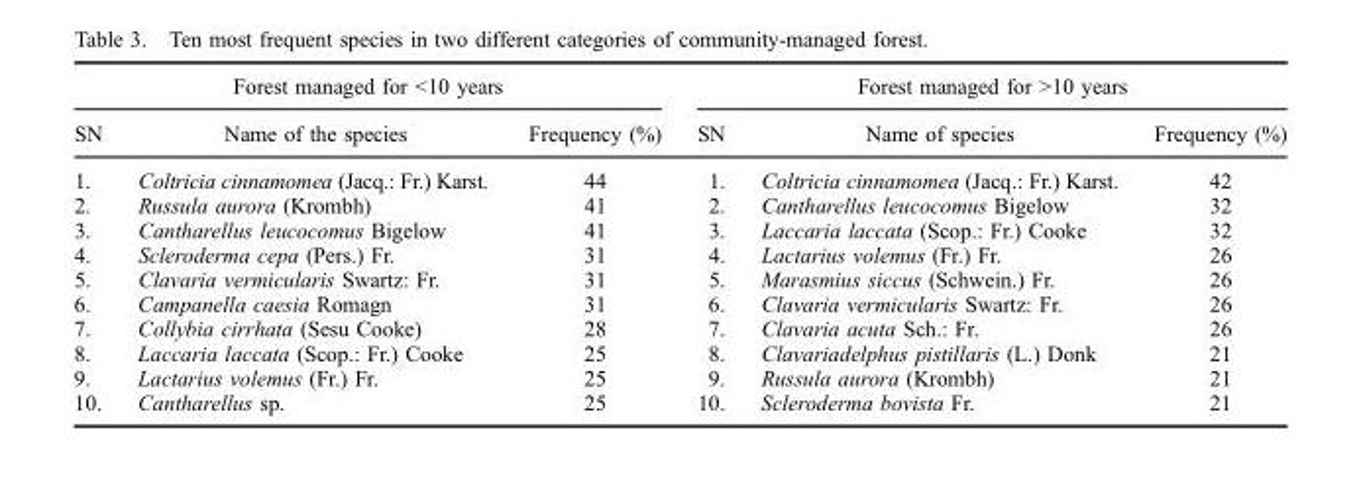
<table><thead><tr><td colspan="3">Forest managed for &lt;10 years</td><td colspan="3">Forest managed for &gt;10 years</td></tr><tr><td>SN</td><td>Name of the species</td><td>Frequency (%)</td><td>SN</td><td>Name of species</td><td>Frequency (%)</td></tr></thead><tbody><tr><td>1.</td><td>Coltricia cinnamomea (Jacq.: Fr.) Karst.</td><td>44</td><td>1.</td><td>Coltricia cinnamomea (Jacq.: Fr.) Karst.</td><td>42</td></tr><tr><td>2.</td><td>Russula aurora (Krombh)</td><td>41</td><td>2.</td><td>Cantharellus leucocomus Bigelow</td><td>32</td></tr><tr><td>3.</td><td>Cantharellus leucocomus Bigelow</td><td>41</td><td>3.</td><td>Laccaria laccata (Scop.: Fr.) Cooke</td><td>32</td></tr><tr><td>4.</td><td>Scleroderma cepa (Pers.) Fr.</td><td>31</td><td>4.</td><td>Lactarius volemus (Fr.) Fr.</td><td>26</td></tr><tr><td>5.</td><td>Clavaria vermicularis Swartz: Fr.</td><td>31</td><td>5.</td><td>Marasmius siccus (Schwein.) Fr.</td><td>26</td></tr><tr><td>6.</td><td>Campanella caesia Romagn</td><td>31</td><td>6.</td><td>Clavaria vermicularis Swartz: Fr.</td><td>26</td></tr><tr><td>7.</td><td>Collybia cirrhata (Sesu Cooke)</td><td>28</td><td>7.</td><td>Clavaria acuta Sch.: Fr.</td><td>26</td></tr><tr><td>8.</td><td>Laccaria laccata (Scop.: Fr.) Cooke</td><td>25</td><td>8.</td><td>Clavariadelphus pistillaris (L.) Donk</td><td>21</td></tr><tr><td>9.</td><td>Lactarius volemus (Fr.) Fr.</td><td>25</td><td>9.</td><td>Russula aurora (Krombh)</td><td>21</td></tr><tr><td>10.</td><td>Cantharellus sp.</td><td>25</td><td>10.</td><td>Scleroderma bovista Fr.</td><td>21</td></tr></tbody></table>